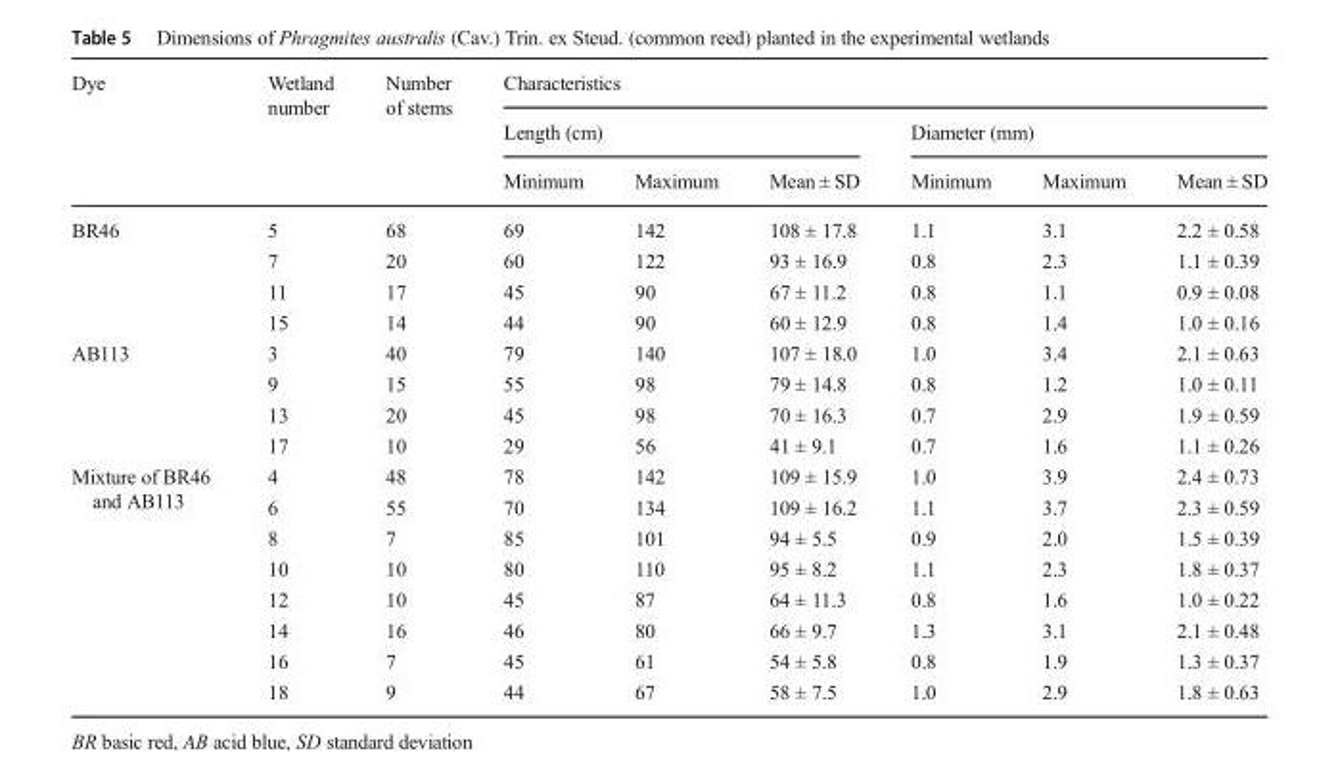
<table><thead><tr><td rowspan="3">Dye</td><td rowspan="3">Wetland number</td><td rowspan="3">Number of stems</td><td colspan="6">Characteristics</td></tr><tr><td colspan="3">Length (cm)</td><td colspan="3">Diameter (mm)</td></tr><tr><td>Minimum</td><td>Maximum</td><td>Mean ± SD</td><td>Minimum</td><td>Maximum</td><td>Mean ± SD</td></tr></thead><tbody><tr><td rowspan="4">BR46</td><td>5</td><td>68</td><td>69</td><td>142</td><td>108 ± 17.8</td><td>1.1</td><td>3.1</td><td>2.2 ± 0.58</td></tr><tr><td>7</td><td>20</td><td>60</td><td>122</td><td>93 ± 16.9</td><td>0.8</td><td>2.3</td><td>1.1 ± 0.39</td></tr><tr><td>11</td><td>17</td><td>45</td><td>90</td><td>67 ± 11.2</td><td>0.8</td><td>1.1</td><td>0.9 ± 0.08</td></tr><tr><td>15</td><td>14</td><td>44</td><td>90</td><td>60 ± 12.9</td><td>0.8</td><td>1.4</td><td>1.0 ± 0.16</td></tr><tr><td rowspan="4">AB113</td><td>3</td><td>40</td><td>79</td><td>140</td><td>107 ± 18.0</td><td>1.0</td><td>3.4</td><td>2.1 ± 0.63</td></tr><tr><td>9</td><td>15</td><td>55</td><td>98</td><td>79 ± 14.8</td><td>0.8</td><td>1.2</td><td>1.0 ± 0.11</td></tr><tr><td>13</td><td>20</td><td>45</td><td>98</td><td>70 ± 16.3</td><td>0.7</td><td>2.9</td><td>1.9 ± 0.59</td></tr><tr><td>17</td><td>10</td><td>29</td><td>56</td><td>41 ± 9.1</td><td>0.7</td><td>1.6</td><td>1.1 ± 0.26</td></tr><tr><td rowspan="8">Mixture of BR46 and AB113</td><td>4</td><td>48</td><td>78</td><td>142</td><td>109 ± 15.9</td><td>1.0</td><td>3.9</td><td>2.4 ± 0.73</td></tr><tr><td>6</td><td>55</td><td>70</td><td>134</td><td>109 ± 16.2</td><td>1.1</td><td>3.7</td><td>2.3 ± 0.59</td></tr><tr><td>8</td><td>7</td><td>85</td><td>101</td><td>94 ± 5.5</td><td>0.9</td><td>2.0</td><td>1.5 ± 0.39</td></tr><tr><td>10</td><td>10</td><td>80</td><td>110</td><td>95 ± 8.2</td><td>1.1</td><td>2.3</td><td>1.8 ± 0.37</td></tr><tr><td>12</td><td>10</td><td>45</td><td>87</td><td>64 ± 11.3</td><td>0.8</td><td>1.6</td><td>1.0 ± 0.22</td></tr><tr><td>14</td><td>16</td><td>46</td><td>80</td><td>66 ± 9.7</td><td>1.3</td><td>3.1</td><td>2.1 ± 0.48</td></tr><tr><td>16</td><td>7</td><td>45</td><td>61</td><td>54 ± 5.8</td><td>0.8</td><td>1.9</td><td>1.3 ± 0.37</td></tr><tr><td>18</td><td>9</td><td>44</td><td>67</td><td>58 ± 7.5</td><td>1.0</td><td>2.9</td><td>1.8 ± 0.63</td></tr></tbody></table>